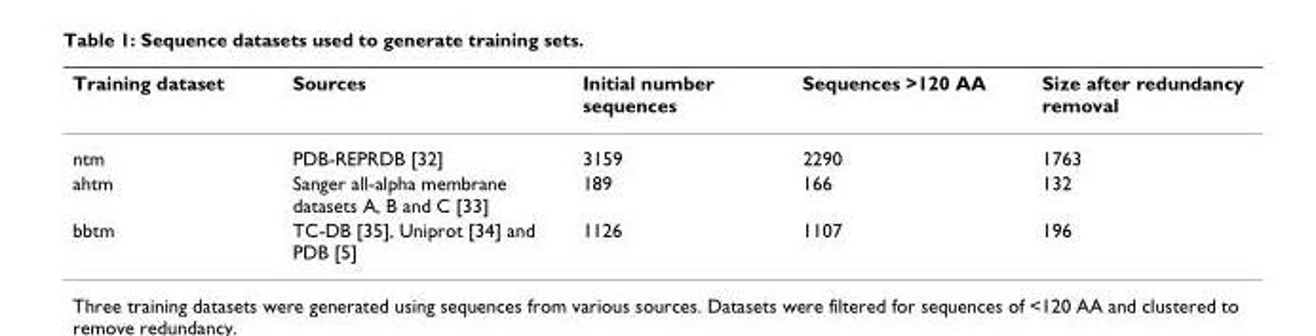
<table><thead><tr><td>Training dataset</td><td>Sources</td><td>Initial number sequences</td><td>Sequences &gt;120 AA</td><td>Size after redundancy removal</td></tr></thead><tbody><tr><td>ntm</td><td>PDB-REPRDB [32]</td><td>3159</td><td>2290</td><td>1763</td></tr><tr><td>ahtm</td><td>Sanger all-alpha membrane datasets A, B and C [33]</td><td>189</td><td>166</td><td>132</td></tr><tr><td>bbtm</td><td>TC-DB [35], Uniprot [34] and PDB [5]</td><td>1126</td><td>1107</td><td>196</td></tr></tbody></table>